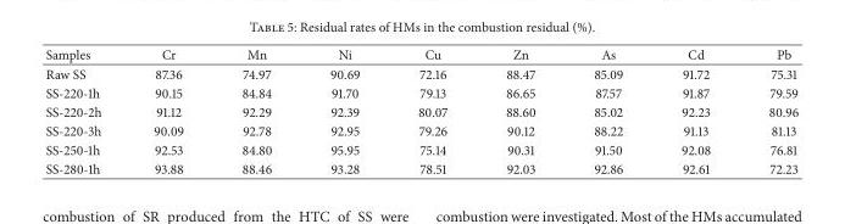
<table><thead><tr><td>Samples</td><td>Cr</td><td>Mn</td><td>Ni</td><td>Cu</td><td>Zn</td><td>As</td><td>Cd</td><td>Pb</td></tr></thead><tbody><tr><td>Raw SS</td><td>87.36</td><td>74.97</td><td>90.69</td><td>72.16</td><td>88.47</td><td>85.09</td><td>91.72</td><td>75.31</td></tr><tr><td>SS-220-1h</td><td>90.15</td><td>84.84</td><td>91.70</td><td>79.13</td><td>86.65</td><td>87.57</td><td>91.87</td><td>79.59</td></tr><tr><td>SS-220-2h</td><td>91.12</td><td>92.29</td><td>92.39</td><td>80.07</td><td>88.60</td><td>85.02</td><td>92.23</td><td>80.96</td></tr><tr><td>SS-220-3h</td><td>90.09</td><td>92.78</td><td>92.95</td><td>79.26</td><td>90.12</td><td>88.22</td><td>91.13</td><td>81.13</td></tr><tr><td>SS-250-1h</td><td>92.53</td><td>84.80</td><td>95.95</td><td>75.14</td><td>90.31</td><td>91.50</td><td>92.08</td><td>76.81</td></tr><tr><td>SS-280-1h</td><td>93.88</td><td>88.46</td><td>93.28</td><td>78.51</td><td>92.03</td><td>92.86</td><td>92.61</td><td>72.23</td></tr></tbody></table>